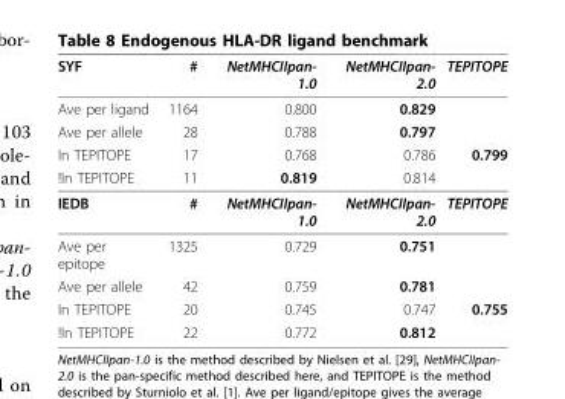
<table><thead><tr><td>SYF</td><td>#</td><td>NetMHCIIpan- 1.0</td><td>NetMHCIIpan- 2.0</td><td>TEPITOPE</td></tr></thead><tbody><tr><td>Ave per ligand</td><td>1164</td><td>0.800</td><td>0.829</td><td></td></tr><tr><td>Ave per allele</td><td>28</td><td>0.788</td><td>0.797</td><td></td></tr><tr><td>In TEPITOPE</td><td>17</td><td>0.768</td><td>0.786</td><td>0.799</td></tr><tr><td>!In TEPITOPE</td><td>11</td><td>0.819</td><td>0.814</td><td></td></tr><tr><td>IEDB</td><td>#</td><td>NetMHCIIpan- 1.0</td><td>NetMHCIIpan- 2.0</td><td>TEPITOPE</td></tr><tr><td>Ave per epitope</td><td>1325</td><td>0.729</td><td>0.751</td><td></td></tr><tr><td>Ave per allele</td><td>42</td><td>0.759</td><td>0.781</td><td></td></tr><tr><td>In TEPITOPE</td><td>20</td><td>0.745</td><td>0.747</td><td>0.755</td></tr><tr><td>!In TEPITOPE</td><td>22</td><td>0.772</td><td>0.812</td><td></td></tr></tbody></table>